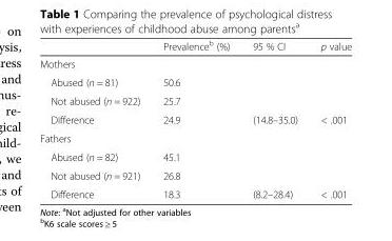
<table><thead><tr><td></td><td>Prevalence<sup>b</sup> (%)</td><td>95 % CI</td><td>p value</td></tr></thead><tbody><tr><td colspan="4">Mothers</td></tr><tr><td>Abused (n = 81)</td><td>50.6</td><td></td><td></td></tr><tr><td>Not abused (n = 922)</td><td>25.7</td><td></td><td></td></tr><tr><td>Difference</td><td>24.9</td><td>(14.8–35.0)</td><td>&lt; .001</td></tr><tr><td colspan="4">Fathers</td></tr><tr><td>Abused (n = 82)</td><td>45.1</td><td></td><td></td></tr><tr><td>Not abused (n = 921)</td><td>26.8</td><td></td><td></td></tr><tr><td>Difference</td><td>18.3</td><td>(8.2–28.4)</td><td>&lt; .001</td></tr></tbody></table>